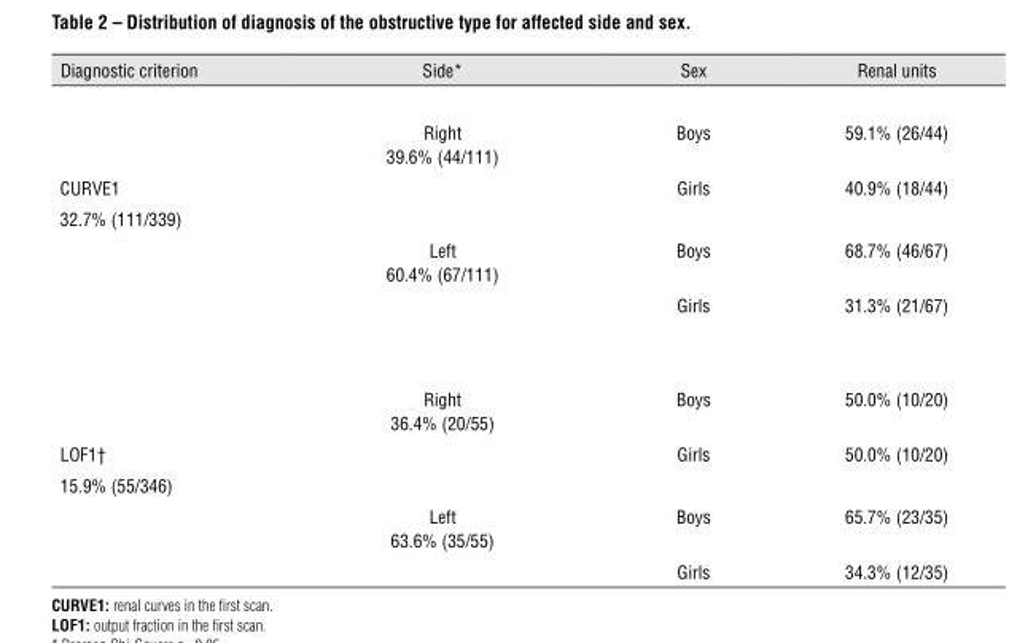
<table><thead><tr><td>Diagnostic criterion</td><td>Side*</td><td>Sex</td><td>Renal units</td></tr></thead><tbody><tr><td></td><td>Right 39.6% (44/111)</td><td>Boys</td><td>59.1% (26/44)</td></tr><tr><td rowspan="4">CURVE1 32.7% (111/339)</td><td></td><td>Girls</td><td>40.9% (18/44)</td></tr><tr><td>Left 60.4% (67/111)</td><td>Boys</td><td>68.7% (46/67)</td></tr><tr><td></td><td>Girls</td><td>31.3% (21/67)</td></tr><tr><td>Right 36.4% (20/55)</td><td>Boys</td><td>50.0% (10/20)</td></tr><tr><td rowspan="3">LOF1† 15.9% (55/346)</td><td></td><td>Girls</td><td>50.0% (10/20)</td></tr><tr><td>Left 63.6% (35/55)</td><td>Boys</td><td>65.7% (23/35)</td></tr><tr><td></td><td>Girls</td><td>34.3% (12/35)</td></tr></tbody></table>